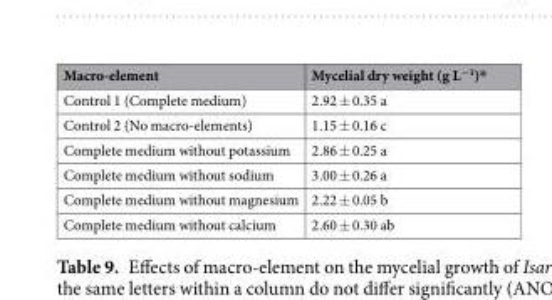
<table><thead><tr><td>Macro-element</td><td>Mycelial dry weight (g L<sup>−1</sup>)*</td></tr></thead><tbody><tr><td>Control 1 (Complete medium)</td><td>2.92 ± 0.35 a</td></tr><tr><td>Control 2 (No macro-elements)</td><td>1.15 ± 0.16 c</td></tr><tr><td>Complete medium without potassium</td><td>2.86 ± 0.25 a</td></tr><tr><td>Complete medium without sodium</td><td>3.00 ± 0.26 a</td></tr><tr><td>Complete medium without magnesium</td><td>2.22 ± 0.05 b</td></tr><tr><td>Complete medium without calcium</td><td>2.60 ± 0.30 ab</td></tr></tbody></table>